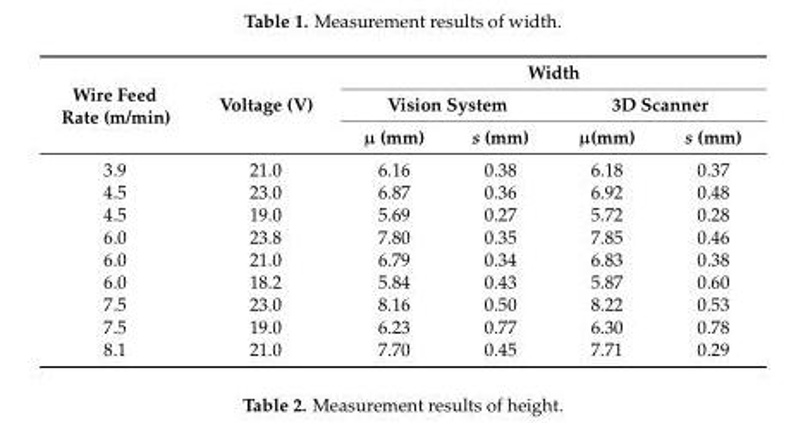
<table><thead><tr><td rowspan="3">Wire Feed Rate (m/min)</td><td rowspan="3">Voltage (V)</td><td colspan="4">Width</td></tr><tr><td colspan="2">Vision System</td><td colspan="2">3D Scanner</td></tr><tr><td>µ (mm)</td><td>s (mm)</td><td>µ(mm)</td><td>s (mm)</td></tr></thead><tbody><tr><td>3.9</td><td>21.0</td><td>6.16</td><td>0.38</td><td>6.18</td><td>0.37</td></tr><tr><td>4.5</td><td>23.0</td><td>6.87</td><td>0.36</td><td>6.92</td><td>0.48</td></tr><tr><td>4.5</td><td>19.0</td><td>5.69</td><td>0.27</td><td>5.72</td><td>0.28</td></tr><tr><td>6.0</td><td>23.8</td><td>7.80</td><td>0.35</td><td>7.85</td><td>0.46</td></tr><tr><td>6.0</td><td>21.0</td><td>6.79</td><td>0.34</td><td>6.83</td><td>0.38</td></tr><tr><td>6.0</td><td>18.2</td><td>5.84</td><td>0.43</td><td>5.87</td><td>0.60</td></tr><tr><td>7.5</td><td>23.0</td><td>8.16</td><td>0.50</td><td>8.22</td><td>0.53</td></tr><tr><td>7.5</td><td>19.0</td><td>6.23</td><td>0.77</td><td>6.30</td><td>0.78</td></tr><tr><td>8.1</td><td>21.0</td><td>7.70</td><td>0.45</td><td>7.71</td><td>0.29</td></tr></tbody></table>